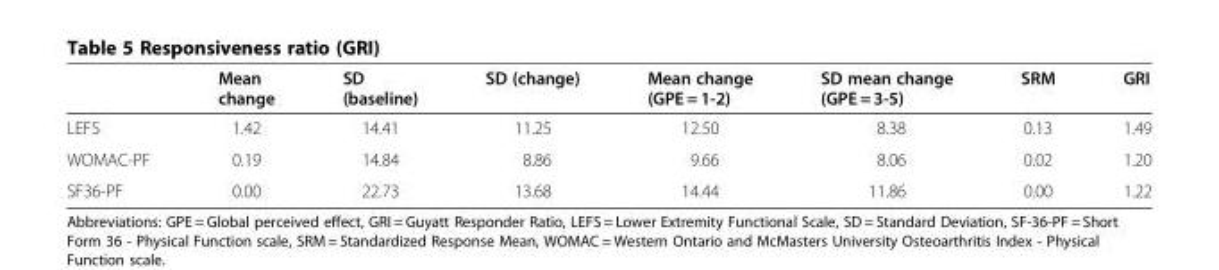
<table><thead><tr><td></td><td>Mean change</td><td>SD (baseline)</td><td>SD (change)</td><td>Mean change (GPE = 1-2)</td><td>SD mean change (GPE = 3-5)</td><td>SRM</td><td>GRI</td></tr></thead><tbody><tr><td>LEFS</td><td>1.42</td><td>14.41</td><td>11.25</td><td>12.50</td><td>8.38</td><td>0.13</td><td>1.49</td></tr><tr><td>WOMAC-PF</td><td>0.19</td><td>14.84</td><td>8.86</td><td>9.66</td><td>8.06</td><td>0.02</td><td>1.20</td></tr><tr><td>SF36-PF</td><td>0.00</td><td>22.73</td><td>13.68</td><td>14.44</td><td>11.86</td><td>0.00</td><td>1.22</td></tr></tbody></table>